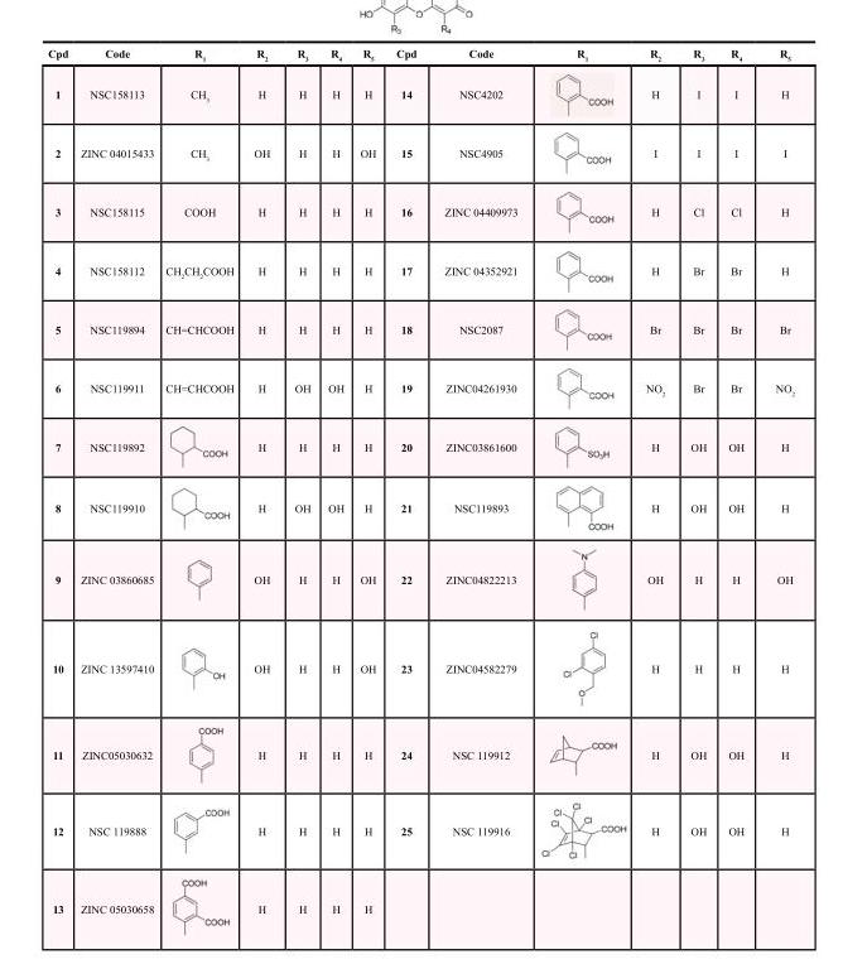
<table><thead><tr><td>Cpd</td><td>Code</td><td>R<sub>1</sub></td><td>R<sub>2</sub></td><td>R<sub>3</sub></td><td>R<sub>4</sub></td><td>R<sub>5</sub></td><td>Cpd</td><td>Code</td><td>R<sub>1</sub></td><td>R<sub>2</sub></td><td>R<sub>3</sub></td><td>R<sub>4</sub></td><td>R<sub>5</sub></td></tr></thead><tbody><tr><td>1</td><td>NSC158113</td><td>CH<sub>3</sub></td><td>H</td><td>H</td><td>H</td><td>H</td><td>14</td><td>NSC4202</td><td></td><td>H</td><td>I</td><td>I</td><td>H</td></tr><tr><td>2</td><td>ZINC 04015433</td><td>CH<sub>3</sub></td><td>OH</td><td>H</td><td>H</td><td>OH</td><td>15</td><td>NSC4905</td><td></td><td>I</td><td>I</td><td>I</td><td>I</td></tr><tr><td>3</td><td>NSC158115</td><td>COOH</td><td>H</td><td>H</td><td>H</td><td>H</td><td>16</td><td>ZINC 04409973</td><td></td><td>H</td><td>Cl</td><td>Cl</td><td>H</td></tr><tr><td>4</td><td>NSC158112</td><td>CH<sub>2</sub>CH<sub>2</sub>COOH</td><td>H</td><td>H</td><td>H</td><td>H</td><td>17</td><td>ZINC 04352921</td><td></td><td>H</td><td>Br</td><td>Br</td><td>H</td></tr><tr><td>5</td><td>NSC119894</td><td>CH=CHCOOH</td><td>H</td><td>H</td><td>H</td><td>H</td><td>18</td><td>NSC2087</td><td></td><td>Br</td><td>Br</td><td>Br</td><td>Br</td></tr><tr><td>6</td><td>NSC119911</td><td>CH=CHCOOH</td><td>H</td><td>OH</td><td>OH</td><td>H</td><td>19</td><td>ZINC04261930</td><td></td><td>NO<sub>2</sub></td><td>Br</td><td>Br</td><td>NO<sub>2</sub></td></tr><tr><td>7</td><td>NSC119892</td><td></td><td>H</td><td>H</td><td>H</td><td>H</td><td>20</td><td>ZINC03861600</td><td></td><td>H</td><td>OH</td><td>OH</td><td>H</td></tr><tr><td>8</td><td>NSC119910</td><td></td><td>H</td><td>OH</td><td>OH</td><td>H</td><td>21</td><td>NSC119893</td><td></td><td>H</td><td>OH</td><td>OH</td><td>H</td></tr><tr><td>9</td><td>ZINC 03860685</td><td></td><td>OH</td><td>H</td><td>H</td><td>OH</td><td>22</td><td>ZINC04822213</td><td></td><td>OH</td><td>H</td><td>H</td><td>OH</td></tr><tr><td>10</td><td>ZINC 13597410</td><td></td><td>OH</td><td>H</td><td>H</td><td>OH</td><td>23</td><td>ZINC04582279</td><td></td><td>H</td><td>H</td><td>H</td><td>H</td></tr><tr><td>11</td><td>ZINC05030632</td><td></td><td>H</td><td>H</td><td>H</td><td>H</td><td>24</td><td>NSC 119912</td><td></td><td>H</td><td>OH</td><td>OH</td><td>H</td></tr><tr><td>12</td><td>NSC 119888</td><td></td><td>H</td><td>H</td><td>H</td><td>H</td><td>25</td><td>NSC 119916</td><td></td><td>H</td><td>OH</td><td>OH</td><td>H</td></tr><tr><td>13</td><td>ZINC 05030658</td><td></td><td>H</td><td>H</td><td>H</td><td>H</td><td></td><td></td><td></td><td></td><td></td><td></td><td></td></tr></tbody></table>